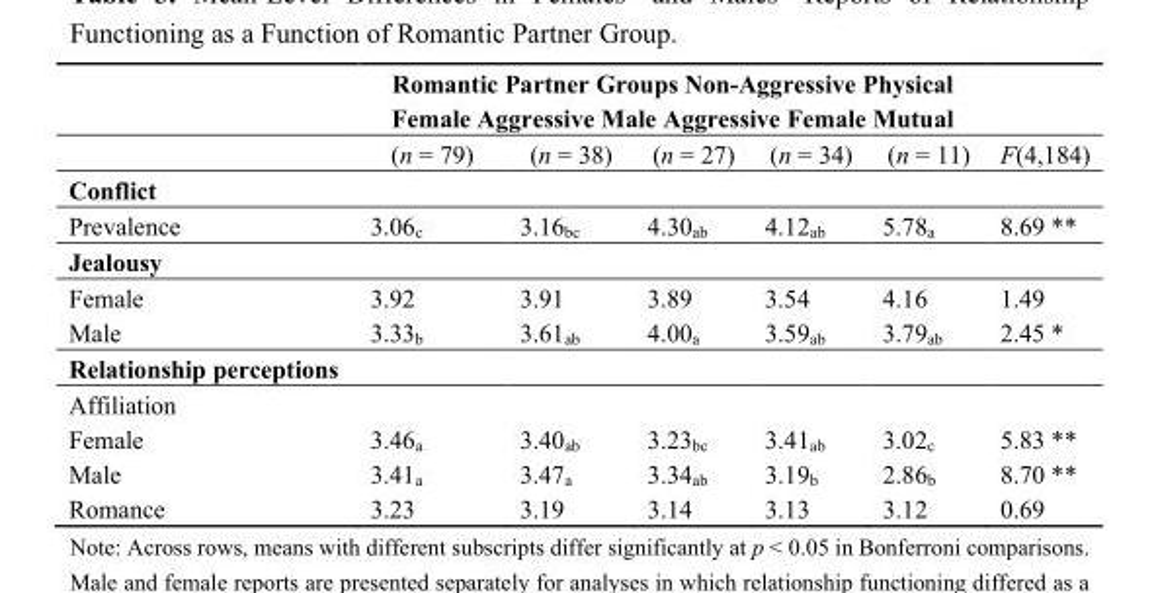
<table><thead><tr><td rowspan="2"></td><td colspan="5">Romantic Partner Groups Non-Aggressive Physical Female Aggressive Male Aggressive Female Mutual</td><td rowspan="2">F(4,184)</td></tr><tr><td>(n = 79)</td><td>(n = 38)</td><td>(n = 27)</td><td>(n = 34)</td><td>(n = 11)</td></tr></thead><tbody><tr><td colspan="7">Conflict</td></tr><tr><td>Prevalence</td><td>3.06<sub>c</sub></td><td>3.16<sub>bc</sub></td><td>4.30<sub>ab</sub></td><td>4.12<sub>ab</sub></td><td>5.78<sub>a</sub></td><td>8.69 **</td></tr><tr><td colspan="7">Jealousy</td></tr><tr><td>Female</td><td>3.92</td><td>3.91</td><td>3.89</td><td>3.54</td><td>4.16</td><td>1.49</td></tr><tr><td>Male</td><td>3.33<sub>b</sub></td><td>3.61<sub>ab</sub></td><td>4.00<sub>a</sub></td><td>3.59<sub>ab</sub></td><td>3.79<sub>ab</sub></td><td>2.45 *</td></tr><tr><td colspan="7">Relationship perceptions</td></tr><tr><td colspan="7">Affiliation</td></tr><tr><td>Female</td><td>3.46<sub>a</sub></td><td>3.40<sub>ab</sub></td><td>3.23<sub>bc</sub></td><td>3.41<sub>ab</sub></td><td>3.02<sub>c</sub></td><td>5.83 **</td></tr><tr><td>Male</td><td>3.41<sub>a</sub></td><td>3.47<sub>a</sub></td><td>3.34<sub>ab</sub></td><td>3.19<sub>b</sub></td><td>2.86<sub>b</sub></td><td>8.70 **</td></tr><tr><td>Romance</td><td>3.23</td><td>3.19</td><td>3.14</td><td>3.13</td><td>3.12</td><td>0.69</td></tr></tbody></table>